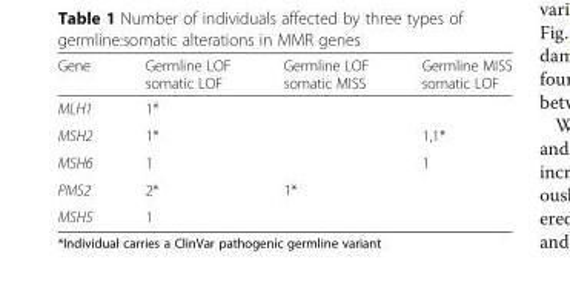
<table><thead><tr><td>Gene</td><td>Germline LOF somatic LOF</td><td>Germline LOF somatic MISS</td><td>Germline MISS somatic LOF</td></tr></thead><tbody><tr><td>MLH1</td><td>1*</td><td></td><td></td></tr><tr><td>MSH2</td><td>1*</td><td></td><td>1,1*</td></tr><tr><td>MSH6</td><td>1</td><td></td><td>1</td></tr><tr><td>PMS2</td><td>2*</td><td>1*</td><td></td></tr><tr><td>MSH5</td><td>1</td><td></td><td></td></tr></tbody></table>